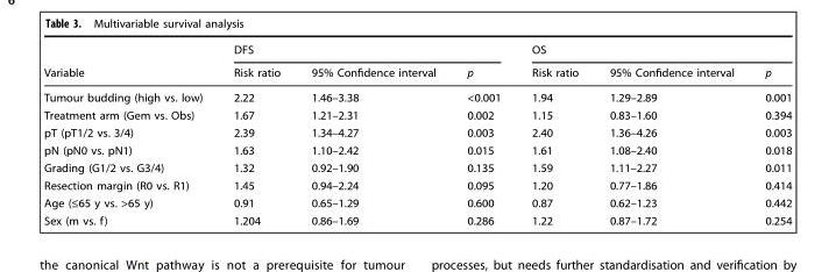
<table><thead><tr><td rowspan="2">Variable</td><td colspan="3">DFS</td><td colspan="3">OS</td></tr><tr><td>Risk ratio</td><td>95% Confidence interval</td><td>p</td><td>Risk ratio</td><td>95% Confidence interval</td><td>p</td></tr></thead><tbody><tr><td>Tumour budding (high vs. low)</td><td>2.22</td><td>1.46–3.38</td><td>&lt;0.001</td><td>1.94</td><td>1.29–2.89</td><td>0.001</td></tr><tr><td>Treatment arm (Gem vs. Obs)</td><td>1.67</td><td>1.21–2.31</td><td>0.002</td><td>1.15</td><td>0.83–1.60</td><td>0.394</td></tr><tr><td>pT (pT1/2 vs. 3/4)</td><td>2.39</td><td>1.34–4.27</td><td>0.003</td><td>2.40</td><td>1.36–4.26</td><td>0.003</td></tr><tr><td>pN (pN0 vs. pN1)</td><td>1.63</td><td>1.10–2.42</td><td>0.015</td><td>1.61</td><td>1.08–2.40</td><td>0.018</td></tr><tr><td>Grading (G1/2 vs. G3/4)</td><td>1.32</td><td>0.92–1.90</td><td>0.135</td><td>1.59</td><td>1.11–2.27</td><td>0.011</td></tr><tr><td>Resection margin (R0 vs. R1)</td><td>1.45</td><td>0.94–2.24</td><td>0.095</td><td>1.20</td><td>0.77–1.86</td><td>0.414</td></tr><tr><td>Age (≤65 y vs. &gt;65 y)</td><td>0.91</td><td>0.65–1.29</td><td>0.600</td><td>0.87</td><td>0.62–1.23</td><td>0.442</td></tr><tr><td>Sex (m vs. f)</td><td>1.204</td><td>0.86–1.69</td><td>0.286</td><td>1.22</td><td>0.87–1.72</td><td>0.254</td></tr></tbody></table>